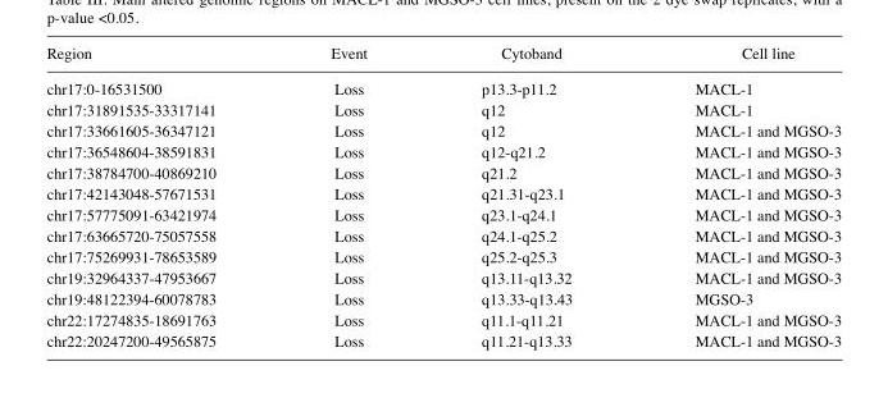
<table><thead><tr><td>Region</td><td>Event</td><td>Cytoband</td><td>Cell line</td></tr></thead><tbody><tr><td>chr17:0-16531500</td><td>Loss</td><td>p13.3-p11.2</td><td>MACL-1</td></tr><tr><td>chr17:31891535-33317141</td><td>Loss</td><td>q12</td><td>MACL-1</td></tr><tr><td>chr17:33661605-36347121</td><td>Loss</td><td>q12</td><td>MACL-1 and MGSO-3</td></tr><tr><td>chr17:36548604-38591831</td><td>Loss</td><td>q12-q21.2</td><td>MACL-1 and MGSO-3</td></tr><tr><td>chr17:38784700-40869210</td><td>Loss</td><td>q21.2</td><td>MACL-1 and MGSO-3</td></tr><tr><td>chr17:42143048-57671531</td><td>Loss</td><td>q21.31-q23.1</td><td>MACL-1 and MGSO-3</td></tr><tr><td>chr17:57775091-63421974</td><td>Loss</td><td>q23.1-q24.1</td><td>MACL-1 and MGSO-3</td></tr><tr><td>chr17:63665720-75057558</td><td>Loss</td><td>q24.1-q25.2</td><td>MACL-1 and MGSO-3</td></tr><tr><td>chr17:75269931-78653589</td><td>Loss</td><td>q25.2-q25.3</td><td>MACL-1 and MGSO-3</td></tr><tr><td>chr19:32964337-47953667</td><td>Loss</td><td>q13.11-q13.32</td><td>MACL-1 and MGSO-3</td></tr><tr><td>chr19:48122394-60078783</td><td>Loss</td><td>q13.33-q13.43</td><td>MGSO-3</td></tr><tr><td>chr22:17274835-18691763</td><td>Loss</td><td>q11.1-q11.21</td><td>MACL-1 and MGSO-3</td></tr><tr><td>chr22:20247200-49565875</td><td>Loss</td><td>q11.21-q13.33</td><td>MACL-1 and MGSO-3</td></tr></tbody></table>